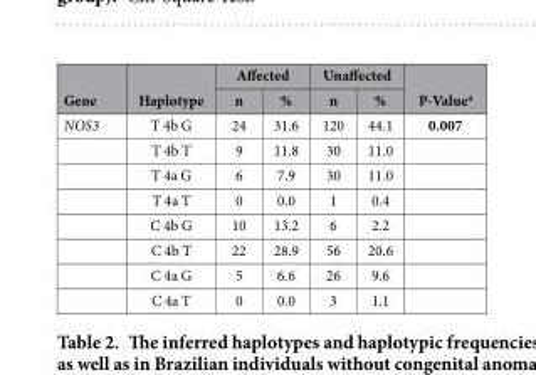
<table><thead><tr><td rowspan="2">Gene</td><td rowspan="2">Haplotype</td><td colspan="2">Affected</td><td colspan="2">Unaffected</td><td rowspan="2">P-Value<sup>a</sup></td></tr><tr><td>n</td><td>%</td><td>n</td><td>%</td></tr></thead><tbody><tr><td rowspan="8">NOS3</td><td>T 4b G</td><td>24</td><td>31.6</td><td>120</td><td>44.1</td><td>0.007</td></tr><tr><td>T 4b T</td><td>9</td><td>11.8</td><td>30</td><td>11.0</td><td></td></tr><tr><td>T 4a G</td><td>6</td><td>7.9</td><td>30</td><td>11.0</td><td></td></tr><tr><td>T 4a T</td><td>0</td><td>0.0</td><td>1</td><td>0.4</td><td></td></tr><tr><td>C 4b G</td><td>10</td><td>13.2</td><td>6</td><td>2.2</td><td></td></tr><tr><td>C 4b T</td><td>22</td><td>28.9</td><td>56</td><td>20.6</td><td></td></tr><tr><td>C 4a G</td><td>5</td><td>6.6</td><td>26</td><td>9.6</td><td></td></tr><tr><td>C 4a T</td><td>0</td><td>0.0</td><td>3</td><td>1.1</td><td></td></tr></tbody></table>